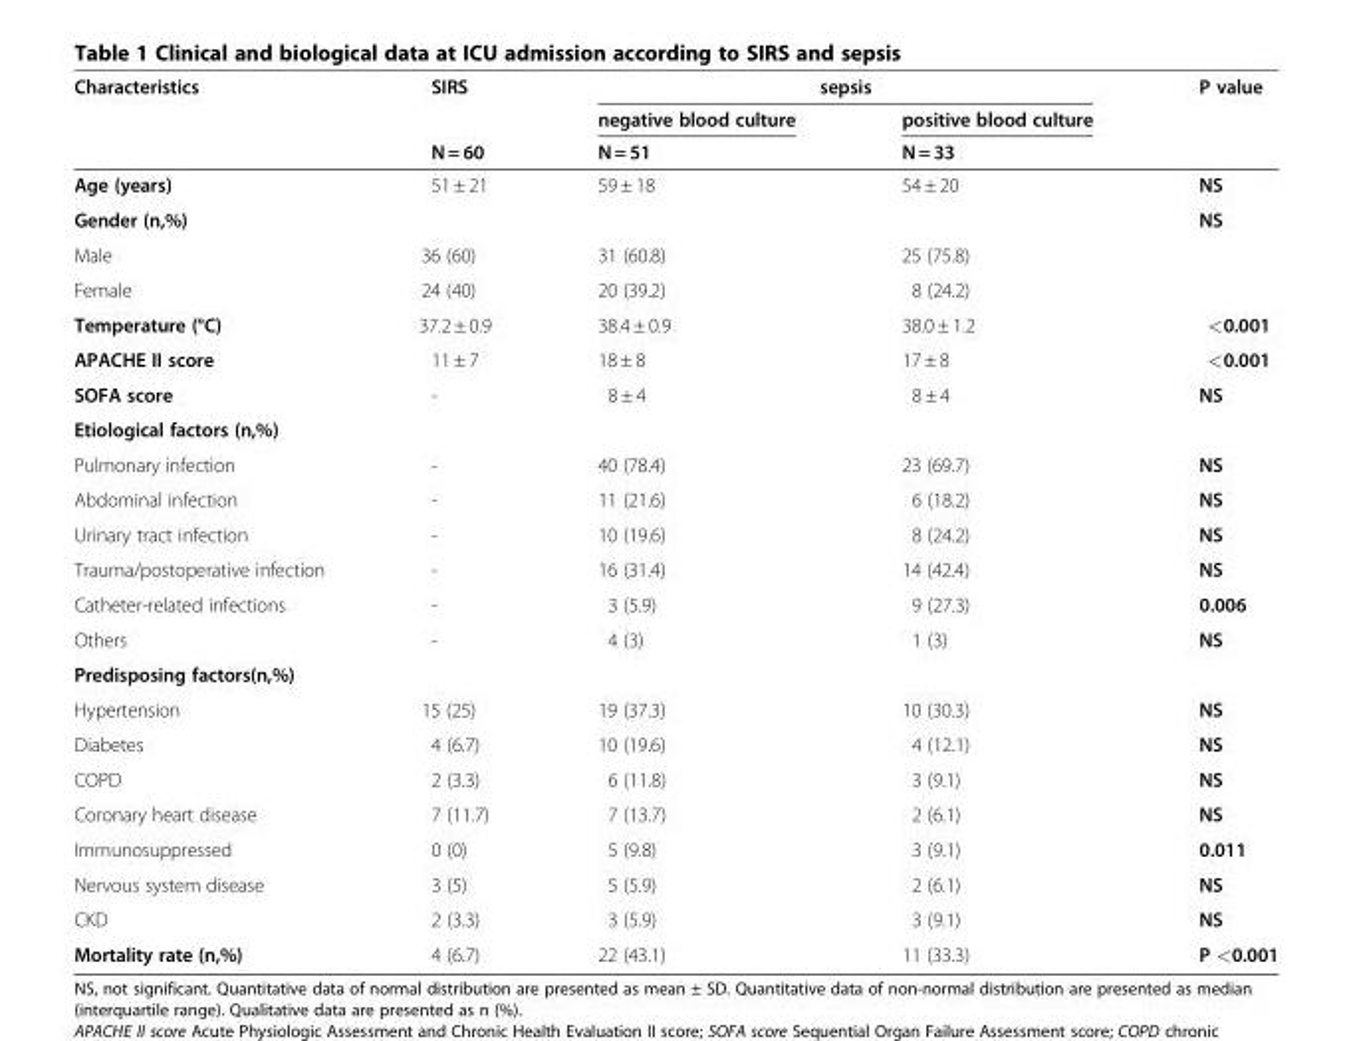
<table><thead><tr><td rowspan="3">Characteristics</td><td rowspan="3">SIRS N = 60</td><td colspan="2">sepsis</td><td rowspan="3">P value</td></tr><tr><td rowspan="2">negative blood culture N = 51</td><td rowspan="2">positive blood culture N = 33</td></tr><tr></tr></thead><tbody><tr><td>Age (years)</td><td>51 ± 21</td><td>59 ± 18</td><td>54 ± 20</td><td>NS</td></tr><tr><td>Gender (n,%)</td><td></td><td></td><td></td><td>NS</td></tr><tr><td>Male</td><td>36 (60)</td><td>31 (60.8)</td><td>25 (75.8)</td><td></td></tr><tr><td>Female</td><td>24 (40)</td><td>20 (39.2)</td><td>8 (24.2)</td><td></td></tr><tr><td>Temperature (°C)</td><td>37.2 ± 0.9</td><td>38.4 ± 0.9</td><td>38.0 ± 1.2</td><td>&lt;0.001</td></tr><tr><td>APACHE II score</td><td>11 ± 7</td><td>18 ± 8</td><td>17 ± 8</td><td>&lt;0.001</td></tr><tr><td>SOFA score</td><td>-</td><td>8 ± 4</td><td>8 ± 4</td><td>NS</td></tr><tr><td colspan="5">Etiological factors (n,%)</td></tr><tr><td>Pulmonary infection</td><td>-</td><td>40 (78.4)</td><td>23 (69.7)</td><td>NS</td></tr><tr><td>Abdominal infection</td><td>-</td><td>11 (21.6)</td><td>6 (18.2)</td><td>NS</td></tr><tr><td>Urinary tract infection</td><td>-</td><td>10 (19.6)</td><td>8 (24.2)</td><td>NS</td></tr><tr><td>Trauma/postoperative infection</td><td>-</td><td>16 (31.4)</td><td>14 (42.4)</td><td>NS</td></tr><tr><td>Catheter-related infections</td><td>-</td><td>3 (5.9)</td><td>9 (27.3)</td><td>0.006</td></tr><tr><td>Others</td><td>-</td><td>4 (3)</td><td>1 (3)</td><td>NS</td></tr><tr><td colspan="5">Predisposing factors(n,%)</td></tr><tr><td>Hypertension</td><td>15 (25)</td><td>19 (37.3)</td><td>10 (30.3)</td><td>NS</td></tr><tr><td>Diabetes</td><td>4 (6.7)</td><td>10 (19.6)</td><td>4 (12.1)</td><td>NS</td></tr><tr><td>COPD</td><td>2 (3.3)</td><td>6 (11.8)</td><td>3 (9.1)</td><td>NS</td></tr><tr><td>Coronary heart disease</td><td>7 (11.7)</td><td>7 (13.7)</td><td>2 (6.1)</td><td>NS</td></tr><tr><td>Immunosuppressed</td><td>0 (0)</td><td>5 (9.8)</td><td>3 (9.1)</td><td>0.011</td></tr><tr><td>Nervous system disease</td><td>3 (5)</td><td>5 (5.9)</td><td>2 (6.1)</td><td>NS</td></tr><tr><td>CKD</td><td>2 (3.3)</td><td>3 (5.9)</td><td>3 (9.1)</td><td>NS</td></tr><tr><td>Mortality rate (n,%)</td><td>4 (6.7)</td><td>22 (43.1)</td><td>11 (33.3)</td><td>P &lt;0.001</td></tr></tbody></table>